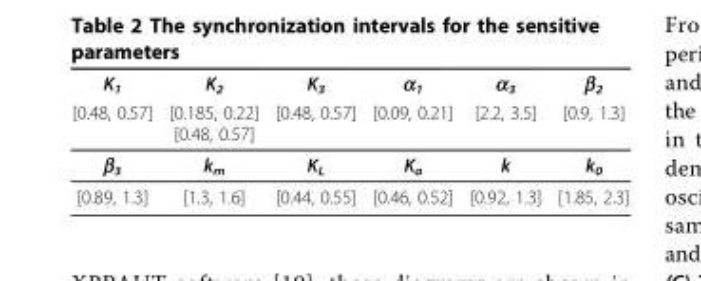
<table><thead><tr><td rowspan="2">K<sub>1</sub> [0.48, 0.57]</td><td rowspan="2">K<sub>2</sub> [0.185, 0.22] [0.48, 0.57]</td><td rowspan="2">K<sub>3</sub> [0.48, 0.57]</td><td rowspan="2">α<sub>1</sub> [0.09, 0.21]</td><td rowspan="2">α<sub>3</sub> [2.2, 3.5]</td><td rowspan="2">β<sub>2</sub> [0.9, 1.3]</td></tr><tr></tr></thead><tbody><tr><td>β<sub>3</sub></td><td>k<sub>m</sub></td><td>K<sub>L</sub></td><td>K<sub>a</sub></td><td>k</td><td>k<sub>0</sub></td></tr><tr><td>[0.89, 1.3]</td><td>[1.3, 1.6]</td><td>[0.44, 0.55]</td><td>[0.46, 0.52]</td><td>[0.92, 1.3]</td><td>[1.85, 2.3]</td></tr></tbody></table>